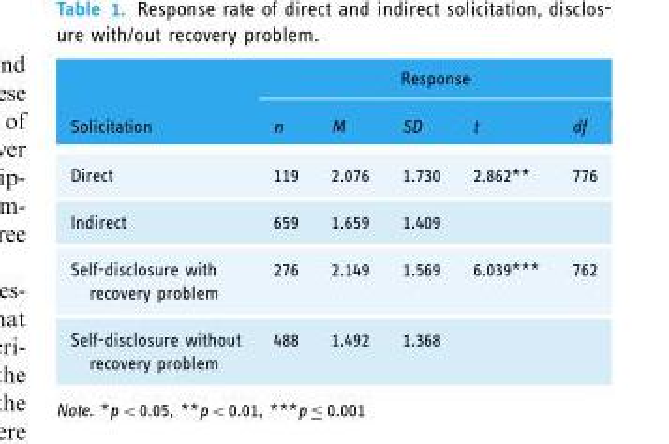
<table><thead><tr><td rowspan="2">Solicitation</td><td colspan="5">Response</td></tr><tr><td>n</td><td>M</td><td>SD</td><td>t</td><td>df</td></tr></thead><tbody><tr><td>Direct</td><td>119</td><td>2.076</td><td>1.730</td><td>2.862**</td><td>776</td></tr><tr><td>Indirect</td><td>659</td><td>1.659</td><td>1.409</td><td></td><td></td></tr><tr><td>Self-disclosure with recovery problem</td><td>276</td><td>2.149</td><td>1.569</td><td>6.039***</td><td>762</td></tr><tr><td>Self-disclosure without recovery problem</td><td>488</td><td>1.492</td><td>1.368</td><td></td><td></td></tr></tbody></table>